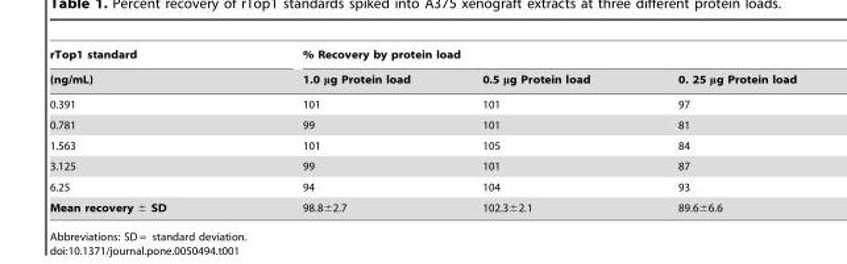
<table><thead><tr><td rowspan="2">rTop1 standard (ng/mL)</td><td colspan="3">% Recovery by protein load</td></tr><tr><td>1.0 μg Protein load</td><td>0.5 μg Protein load</td><td>0. 25 μg Protein load</td></tr></thead><tbody><tr><td>0.391</td><td>101</td><td>101</td><td>97</td></tr><tr><td>0.781</td><td>99</td><td>101</td><td>81</td></tr><tr><td>1.563</td><td>101</td><td>105</td><td>84</td></tr><tr><td>3.125</td><td>99</td><td>101</td><td>87</td></tr><tr><td>6.25</td><td>94</td><td>104</td><td>93</td></tr><tr><td>Mean recovery ± SD</td><td>98.8±2.7</td><td>102.3±2.1</td><td>89.6±6.6</td></tr></tbody></table>